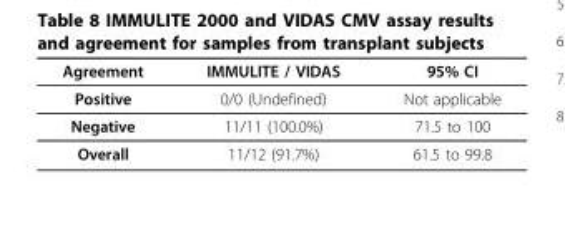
<table><thead><tr><td>Agreement</td><td>IMMULITE / VIDAS</td><td>95% CI</td></tr></thead><tbody><tr><td>Positive</td><td>0/0 (Undefined)</td><td>Not applicable</td></tr><tr><td>Negative</td><td>11/11 (100.0%)</td><td>71.5 to 100</td></tr><tr><td>Overall</td><td>11/12 (91.7%)</td><td>61.5 to 99.8</td></tr></tbody></table>